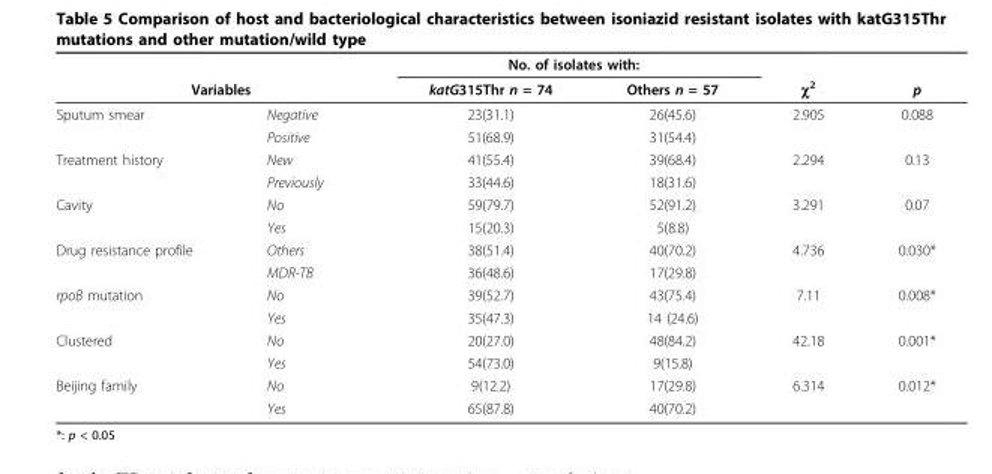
<table><thead><tr><td></td><td></td><td colspan="2">No. of isolates with:</td><td rowspan="2">χ<sup>2</sup></td><td rowspan="2">p</td></tr><tr><td colspan="2">Variables</td><td>katG315Thr n = 74</td><td>Others n = 57</td></tr></thead><tbody><tr><td rowspan="2">Sputum smear</td><td>Negative</td><td>23(31.1)</td><td>26(45.6)</td><td>2.905</td><td>0.088</td></tr><tr><td>Positive</td><td>51(68.9)</td><td>31(54.4)</td><td></td><td></td></tr><tr><td rowspan="2">Treatment history</td><td>New</td><td>41(55.4)</td><td>39(68.4)</td><td>2.294</td><td>0.13</td></tr><tr><td>Previously</td><td>33(44.6)</td><td>18(31.6)</td><td></td><td></td></tr><tr><td rowspan="2">Cavity</td><td>No</td><td>59(79.7)</td><td>52(91.2)</td><td>3.291</td><td>0.07</td></tr><tr><td>Yes</td><td>15(20.3)</td><td>5(8.8)</td><td></td><td></td></tr><tr><td rowspan="2">Drug resistance profile</td><td>Others</td><td>38(51.4)</td><td>40(70.2)</td><td>4.736</td><td>0.030*</td></tr><tr><td>MDR-TB</td><td>36(48.6)</td><td>17(29.8)</td><td></td><td></td></tr><tr><td rowspan="2">rpoB mutation</td><td>No</td><td>39(52.7)</td><td>43(75.4)</td><td>7.11</td><td>0.008*</td></tr><tr><td>Yes</td><td>35(47.3)</td><td>14 (24.6)</td><td></td><td></td></tr><tr><td rowspan="2">Clustered</td><td>No</td><td>20(27.0)</td><td>48(84.2)</td><td>42.18</td><td>0.001*</td></tr><tr><td>Yes</td><td>54(73.0)</td><td>9(15.8)</td><td></td><td></td></tr><tr><td rowspan="2">Beijing family</td><td>No</td><td>9(12.2)</td><td>17(29.8)</td><td>6.314</td><td>0.012*</td></tr><tr><td>Yes</td><td>65(87.8)</td><td>40(70.2)</td><td></td><td></td></tr></tbody></table>